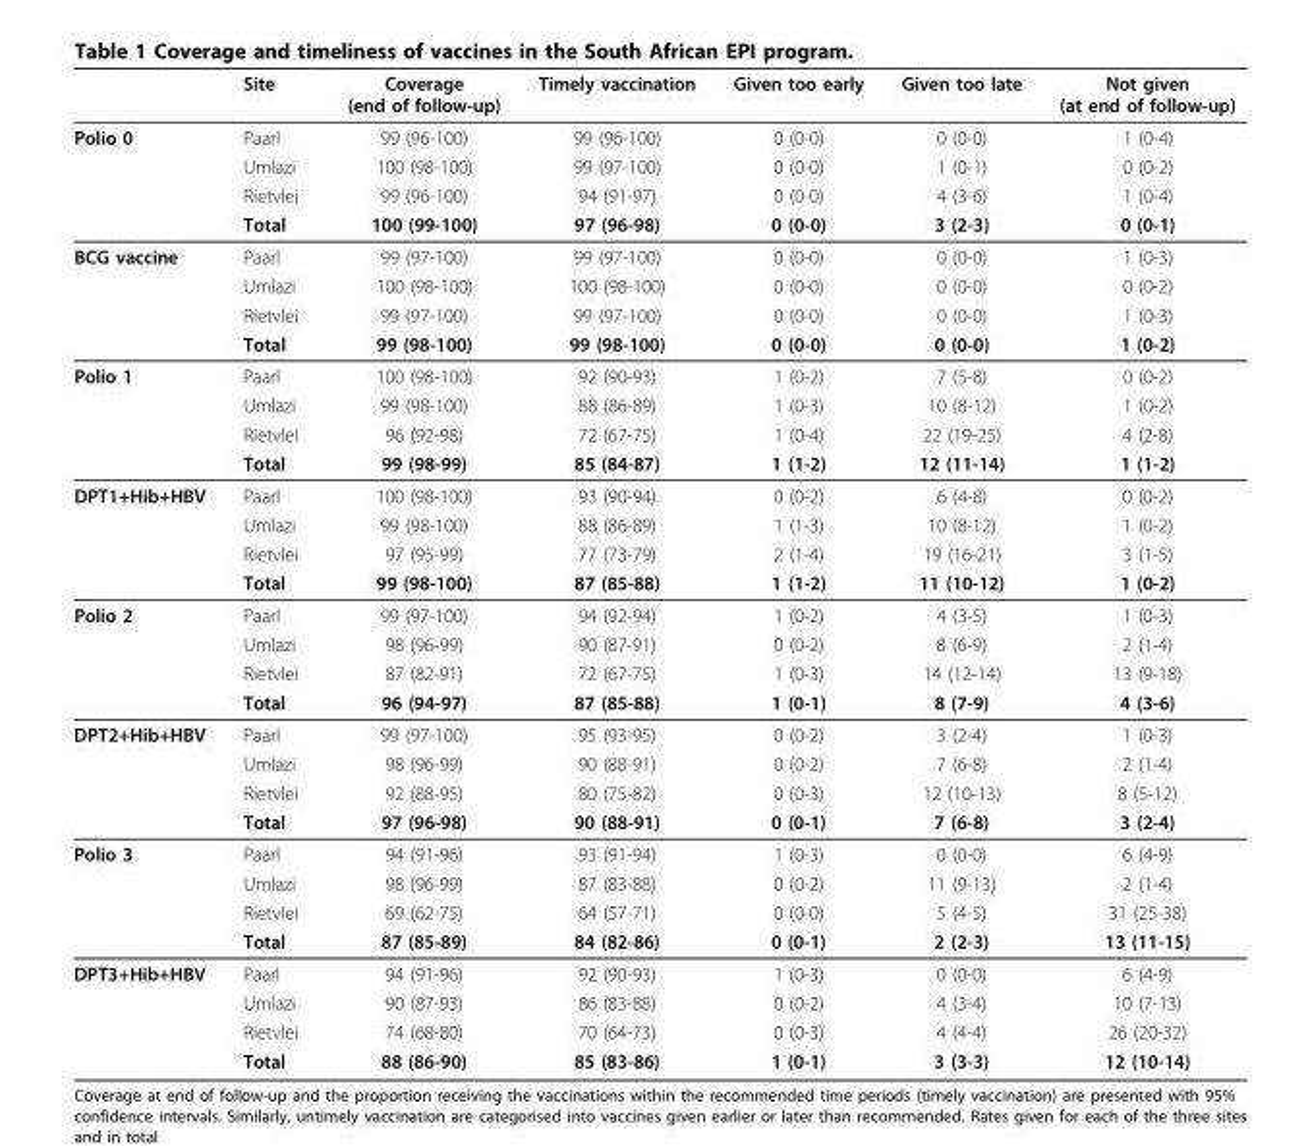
<table><thead><tr><td></td><td>Site</td><td>Coverage (end of follow-up)</td><td>Timely vaccination</td><td>Given too early</td><td>Given too late</td><td>Not given (at end of follow-up)</td></tr></thead><tbody><tr><td rowspan="4">Polio 0</td><td>Paarl</td><td>99 (96-100)</td><td>99 (96-100)</td><td>0 (0-0)</td><td>0 (0-0)</td><td>1 (0-4)</td></tr><tr><td>Umlazi</td><td>100 (98-100)</td><td>99 (97-100)</td><td>0 (0-0)</td><td>1 (0-1)</td><td>0 (0-2)</td></tr><tr><td>Rietvlei</td><td>99 (96-100)</td><td>94 (91-97)</td><td>0 (0-0)</td><td>4 (3-6)</td><td>1 (0-4)</td></tr><tr><td>Total</td><td>100 (99-100)</td><td>97 (96-98)</td><td>0 (0-0)</td><td>3 (2-3)</td><td>0 (0-1)</td></tr><tr><td rowspan="4">BCG vaccine</td><td>Paarl</td><td>99 (97-100)</td><td>99 (97-100)</td><td>0 (0-0)</td><td>0 (0-0)</td><td>1 (0-3)</td></tr><tr><td>Umlazi</td><td>100 (98-100)</td><td>100 (98-100)</td><td>0 (0-0)</td><td>0 (0-0)</td><td>0 (0-2)</td></tr><tr><td>Rietvlei</td><td>99 (97-100)</td><td>99 (97-100)</td><td>0 (0-0)</td><td>0 (0-0)</td><td>1 (0-3)</td></tr><tr><td>Total</td><td>99 (98-100)</td><td>99 (98-100)</td><td>0 (0-0)</td><td>0 (0-0)</td><td>1 (0-2)</td></tr><tr><td rowspan="4">Polio 1</td><td>Paarl</td><td>100 (98-100)</td><td>92 (90-93)</td><td>1 (0-2)</td><td>7 (5-8)</td><td>0 (0-2)</td></tr><tr><td>Umlazi</td><td>99 (98-100)</td><td>88 (86-89)</td><td>1 (0-3)</td><td>10 (8-12)</td><td>1 (0-2)</td></tr><tr><td>Rietvlei</td><td>96 (92-98)</td><td>72 (67-75)</td><td>1 (0-4)</td><td>22 (19-25)</td><td>4 (2-8)</td></tr><tr><td>Total</td><td>99 (98-99)</td><td>85 (84-87)</td><td>1 (1-2)</td><td>12 (11-14)</td><td>1 (1-2)</td></tr><tr><td rowspan="4">DPT1+Hib+HBV</td><td>Paarl</td><td>100 (98-100)</td><td>93 (90-94)</td><td>0 (0-2)</td><td>6 (4-8)</td><td>0 (0-2)</td></tr><tr><td>Umlazi</td><td>99 (98-100)</td><td>88 (86-89)</td><td>1 (1-3)</td><td>10 (8-12)</td><td>1 (0-2)</td></tr><tr><td>Rietvlei</td><td>97 (95-99)</td><td>77 (73-79)</td><td>2 (1-4)</td><td>19 (16-21)</td><td>3 (1-5)</td></tr><tr><td>Total</td><td>99 (98-100)</td><td>87 (85-88)</td><td>1 (1-2)</td><td>11 (10-12)</td><td>1 (0-2)</td></tr><tr><td rowspan="4">Polio 2</td><td>Paarl</td><td>99 (97-100)</td><td>94 (92-94)</td><td>1 (0-2)</td><td>4 (3-5)</td><td>1 (0-3)</td></tr><tr><td>Umlazi</td><td>98 (96-99)</td><td>90 (87-91)</td><td>0 (0-2)</td><td>8 (6-9)</td><td>2 (1-4)</td></tr><tr><td>Rietvlei</td><td>87 (82-91)</td><td>72 (67-75)</td><td>1 (0-3)</td><td>14 (12-14)</td><td>13 (9-18)</td></tr><tr><td>Total</td><td>96 (94-97)</td><td>87 (85-88)</td><td>1 (0-1)</td><td>8 (7-9)</td><td>4 (3-6)</td></tr><tr><td rowspan="4">DPT2+Hib+HBV</td><td>Paarl</td><td>99 (97-100)</td><td>95 (93-95)</td><td>0 (0-2)</td><td>3 (2-4)</td><td>1 (0-3)</td></tr><tr><td>Umlazi</td><td>98 (96-99)</td><td>90 (88-91)</td><td>0 (0-2)</td><td>7 (6-8)</td><td>2 (1-4)</td></tr><tr><td>Rietvlei</td><td>92 (88-95)</td><td>80 (75-82)</td><td>0 (0-3)</td><td>12 (10-13)</td><td>8 (5-12)</td></tr><tr><td>Total</td><td>97 (96-98)</td><td>90 (88-91)</td><td>0 (0-1)</td><td>7 (6-8)</td><td>3 (2-4)</td></tr><tr><td rowspan="4">Polio 3</td><td>Paarl</td><td>94 (91-96)</td><td>93 (91-94)</td><td>1 (0-3)</td><td>0 (0-0)</td><td>6 (4-9)</td></tr><tr><td>Umlazi</td><td>98 (96-99)</td><td>87 (83-88)</td><td>0 (0-2)</td><td>11 (9-13)</td><td>2 (1-4)</td></tr><tr><td>Rietvlei</td><td>69 (62-75)</td><td>64 (57-71)</td><td>0 (0-0)</td><td>5 (4-5)</td><td>31 (25-38)</td></tr><tr><td>Total</td><td>87 (85-89)</td><td>84 (82-86)</td><td>0 (0-1)</td><td>2 (2-3)</td><td>13 (11-15)</td></tr><tr><td rowspan="4">DPT3+Hib+HBV</td><td>Paarl</td><td>94 (91-96)</td><td>92 (90-93)</td><td>1 (0-3)</td><td>0 (0-0)</td><td>6 (4-9)</td></tr><tr><td>Umlazi</td><td>90 (87-93)</td><td>86 (83-88)</td><td>0 (0-2)</td><td>4 (3-4)</td><td>10 (7-13)</td></tr><tr><td>Rietvlei</td><td>74 (68-80)</td><td>70 (64-73)</td><td>0 (0-3)</td><td>4 (4-4)</td><td>26 (20-32)</td></tr><tr><td>Total</td><td>88 (86-90)</td><td>85 (83-86)</td><td>1 (0-1)</td><td>3 (3-3)</td><td>12 (10-14)</td></tr></tbody></table>